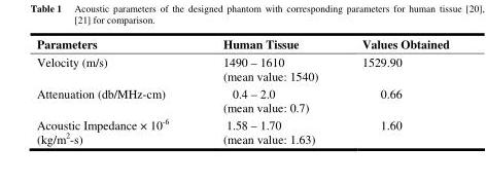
<table><thead><tr><td>Parameters</td><td>Human Tissue</td><td>Values Obtained</td></tr></thead><tbody><tr><td>Velocity (m/s)</td><td>1490 – 1610 (mean value: 1540)</td><td>1529.90</td></tr><tr><td>Attenuation (db/MHz-cm)</td><td>0.4 – 2.0 (mean value: 0.7)</td><td>0.66</td></tr><tr><td>Acoustic Impedance × 10<sup>-6</sup> (kg/m<sup>2</sup>-s)</td><td>1.58 – 1.70 (mean value: 1.63)</td><td>1.60</td></tr></tbody></table>